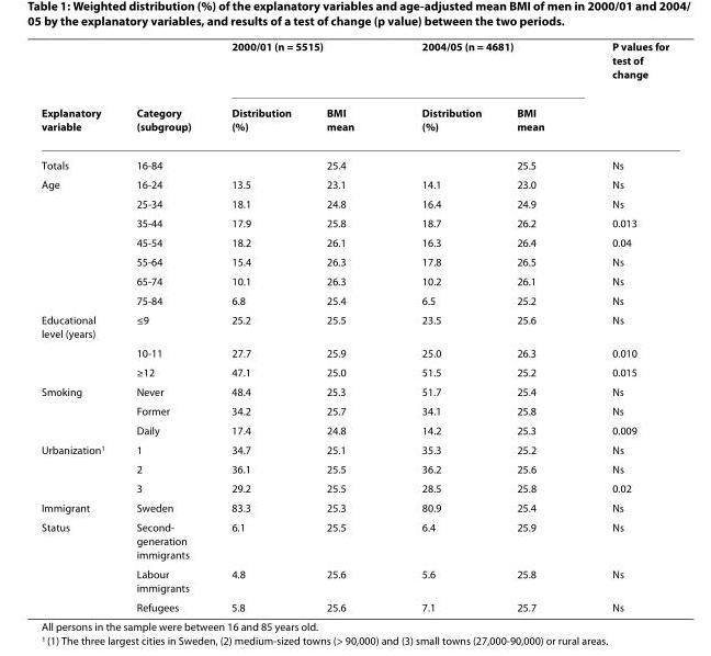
<table><thead><tr><td rowspan="2">Explanatory variable</td><td rowspan="2">Category (subgroup)</td><td colspan="2">2000/01 (n = 5515)</td><td colspan="2">2004/05 (n = 4681)</td><td rowspan="2">P values for test of change</td></tr><tr><td>Distribution (%)</td><td>BMI mean</td><td>Distribution (%)</td><td>BMI mean</td></tr></thead><tbody><tr><td>Totals</td><td>16-84</td><td></td><td>25.4</td><td></td><td>25.5</td><td>Ns</td></tr><tr><td rowspan="7">Age</td><td>16-24</td><td>13.5</td><td>23.1</td><td>14.1</td><td>23.0</td><td>Ns</td></tr><tr><td>25-34</td><td>18.1</td><td>24.8</td><td>16.4</td><td>24.9</td><td>Ns</td></tr><tr><td>35-44</td><td>17.9</td><td>25.8</td><td>18.7</td><td>26.2</td><td>0.013</td></tr><tr><td>45-54</td><td>18.2</td><td>26.1</td><td>16.3</td><td>26.4</td><td>0.04</td></tr><tr><td>55-64</td><td>15.4</td><td>26.3</td><td>17.8</td><td>26.5</td><td>Ns</td></tr><tr><td>65-74</td><td>10.1</td><td>26.3</td><td>10.2</td><td>26.1</td><td>Ns</td></tr><tr><td>75-84</td><td>6.8</td><td>25.4</td><td>6.5</td><td>25.2</td><td>Ns</td></tr><tr><td rowspan="3">Educational level (years)</td><td>≤9</td><td>25.2</td><td>25.5</td><td>23.5</td><td>25.6</td><td>Ns</td></tr><tr><td>10-11</td><td>27.7</td><td>25.9</td><td>25.0</td><td>26.3</td><td>0.010</td></tr><tr><td>≥12</td><td>47.1</td><td>25.0</td><td>51.5</td><td>25.2</td><td>0.015</td></tr><tr><td rowspan="3">Smoking</td><td>Never</td><td>48.4</td><td>25.3</td><td>51.7</td><td>25.4</td><td>Ns</td></tr><tr><td>Former</td><td>34.2</td><td>25.7</td><td>34.1</td><td>25.8</td><td>Ns</td></tr><tr><td>Daily</td><td>17.4</td><td>24.8</td><td>14.2</td><td>25.3</td><td>0.009</td></tr><tr><td rowspan="3">Urbanization<sup>1</sup></td><td>1</td><td>34.7</td><td>25.1</td><td>35.3</td><td>25.2</td><td>Ns</td></tr><tr><td>2</td><td>36.1</td><td>25.5</td><td>36.2</td><td>25.6</td><td>Ns</td></tr><tr><td>3</td><td>29.2</td><td>25.5</td><td>28.5</td><td>25.8</td><td>0.02</td></tr><tr><td>Immigrant</td><td>Sweden</td><td>83.3</td><td>25.3</td><td>80.9</td><td>25.4</td><td>Ns</td></tr><tr><td rowspan="3">Status</td><td>Second- generation immigrants</td><td>6.1</td><td>25.5</td><td>6.4</td><td>25.9</td><td>Ns</td></tr><tr><td>Labour immigrants</td><td>4.8</td><td>25.6</td><td>5.6</td><td>25.8</td><td>Ns</td></tr><tr><td>Refugees</td><td>5.8</td><td>25.6</td><td>7.1</td><td>25.7</td><td>Ns</td></tr></tbody></table>